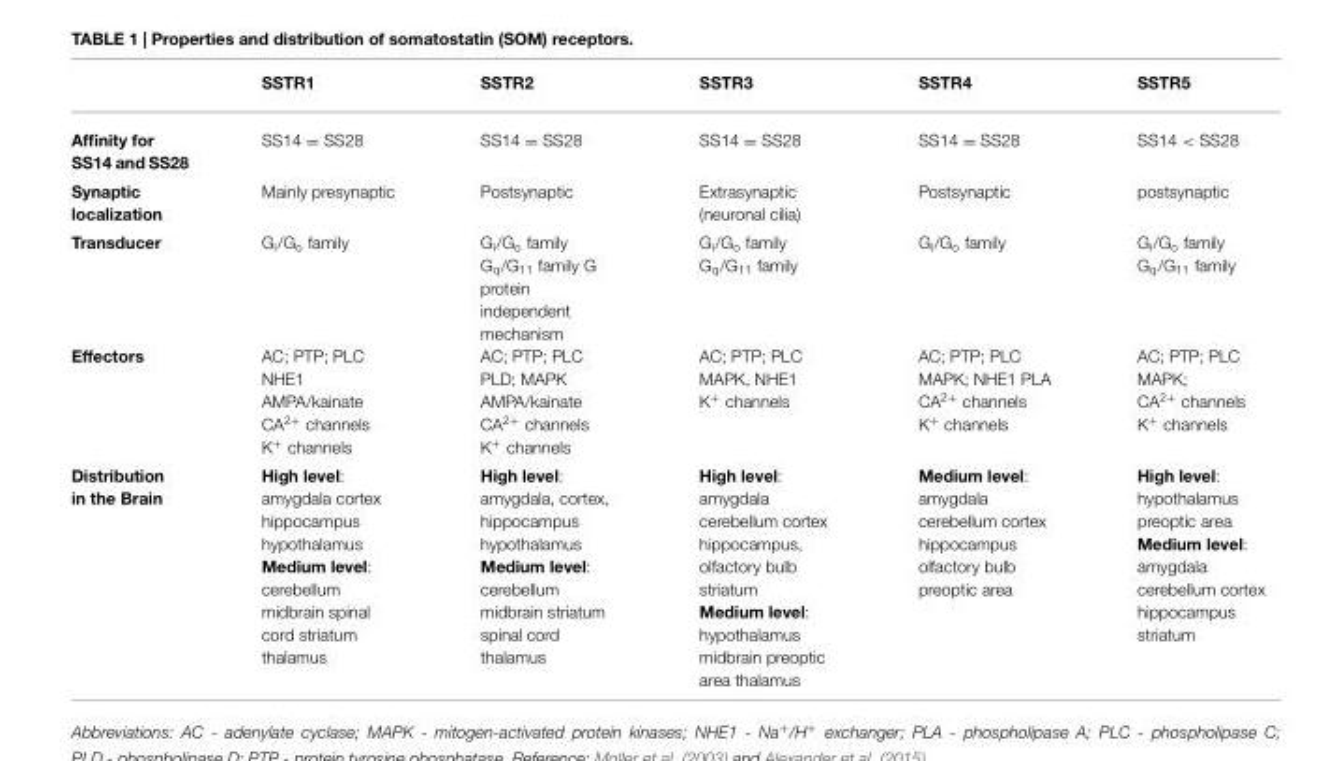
<table><thead><tr><td></td><td>SSTR1</td><td>SSTR2</td><td>SSTR3</td><td>SSTR4</td><td>SSTR5</td></tr></thead><tbody><tr><td>Affinity for SS14 and SS28</td><td>SS14 = SS28</td><td>SS14 = SS28</td><td>SS14 = SS28</td><td>SS14 = SS28</td><td>SS14 &lt; SS28</td></tr><tr><td>Synaptic localization</td><td>Mainly presynaptic</td><td>Postsynaptic</td><td>Extrasynaptic (neuronal cilia)</td><td>Postsynaptic</td><td>postsynaptic</td></tr><tr><td>Transducer</td><td>G<sub>i</sub>/G<sub>o</sub> family</td><td>G<sub>i</sub>/G<sub>o</sub> family G<sub>q</sub>/G<sub>11</sub> family G protein independent mechanism</td><td>G<sub>i</sub>/G<sub>o</sub> family G<sub>q</sub>/G<sub>11</sub> family</td><td>G<sub>i</sub>/G<sub>o</sub> family</td><td>G<sub>i</sub>/G<sub>o</sub> family G<sub>q</sub>/G<sub>11</sub> family</td></tr><tr><td>Effectors</td><td>AC; PTP; PLC NHE1 AMPA/kainate CA<sup>2+</sup> channels K<sup>+</sup> channels</td><td>AC; PTP; PLC PLD; MAPK AMPA/kainate CA<sup>2+</sup> channels K<sup>+</sup> channels</td><td>AC; PTP; PLC MAPK, NHE1 K<sup>+</sup> channels</td><td>AC; PTP; PLC MAPK; NHE1 PLA CA<sup>2+</sup> channels K<sup>+</sup> channels</td><td>AC; PTP; PLC MAPK; CA<sup>2+</sup> channels K<sup>+</sup> channels</td></tr><tr><td>Distribution in the Brain</td><td>High level: amygdala cortex hippocampus hypothalamus Medium level: cerebellum midbrain spinal cord striatum thalamus</td><td>High level: amygdala, cortex, hippocampus hypothalamus Medium level: cerebellum midbrain striatum spinal cord thalamus</td><td>High level: amygdala cerebellum cortex hippocampus, olfactory bulb striatum Medium level: hypothalamus midbrain preoptic area thalamus</td><td>Medium level: amygdala cerebellum cortex hippocampus olfactory bulb preoptic area</td><td>High level: hypothalamus preoptic area Medium level: amygdala cerebellum cortex hippocampus striatum</td></tr></tbody></table>